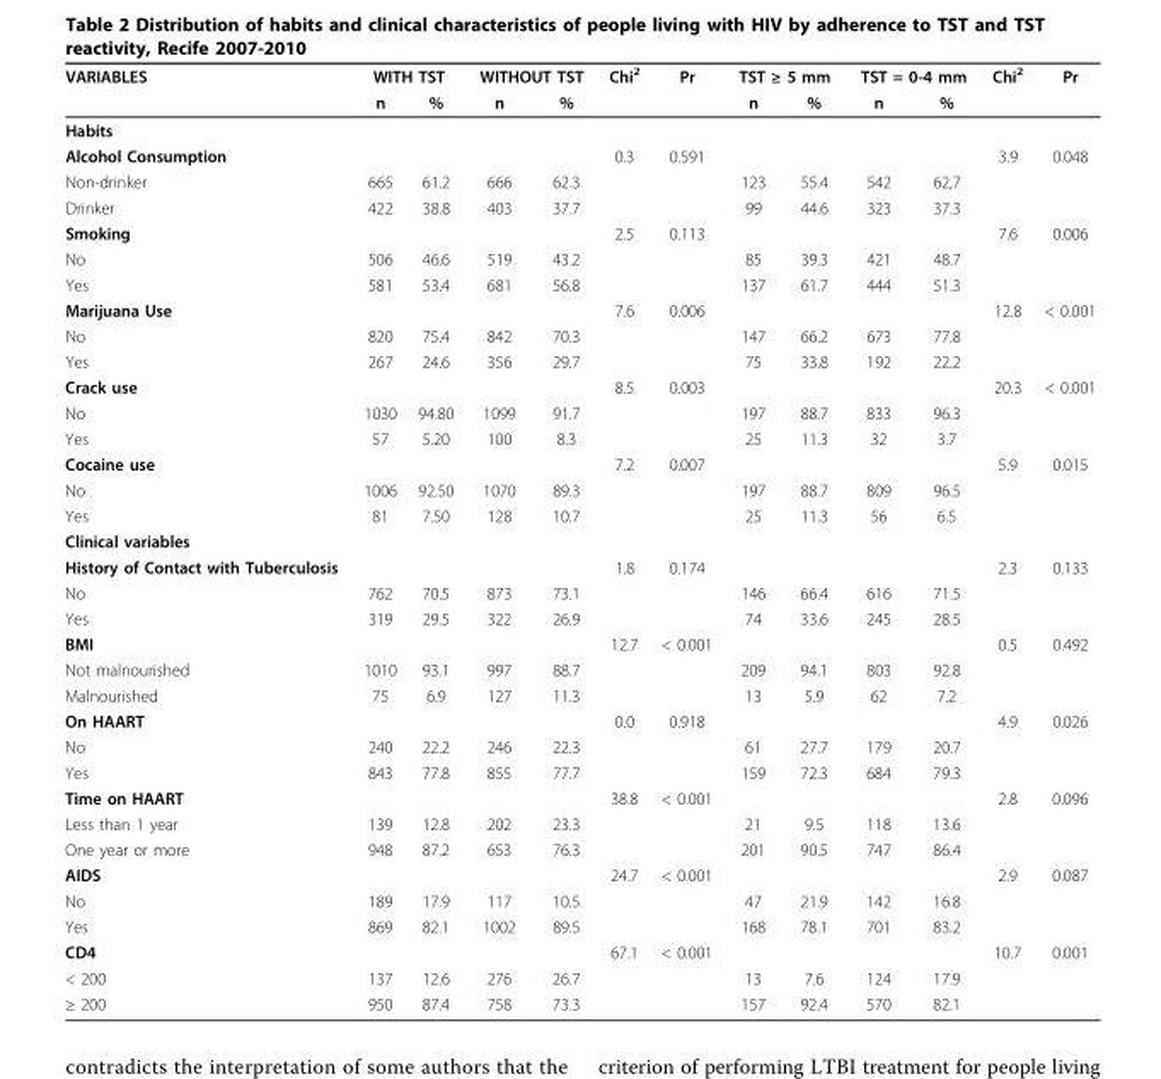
<table><thead><tr><td rowspan="2">VARIABLES</td><td colspan="2">WITH TST</td><td colspan="2">WITHOUT TST</td><td rowspan="2">Chi<sup>2</sup></td><td rowspan="2">Pr</td><td colspan="2">TST ≥ 5 mm</td><td colspan="2">TST = 0-4 mm</td><td rowspan="2">Chi<sup>2</sup></td><td rowspan="2">Pr</td></tr><tr><td>n</td><td>%</td><td>n</td><td>%</td><td>n</td><td>%</td><td>n</td><td>%</td></tr></thead><tbody><tr><td colspan="13">Habits</td></tr><tr><td>Alcohol Consumption</td><td></td><td></td><td></td><td></td><td>0.3</td><td>0.591</td><td></td><td></td><td></td><td></td><td>3.9</td><td>0.048</td></tr><tr><td>Non-drinker</td><td>665</td><td>61.2</td><td>666</td><td>62.3</td><td></td><td></td><td>123</td><td>55.4</td><td>542</td><td>62,7</td><td></td><td></td></tr><tr><td>Drinker</td><td>422</td><td>38.8</td><td>403</td><td>37.7</td><td></td><td></td><td>99</td><td>44.6</td><td>323</td><td>37.3</td><td></td><td></td></tr><tr><td>Smoking</td><td></td><td></td><td></td><td></td><td>2.5</td><td>0.113</td><td></td><td></td><td></td><td></td><td>7.6</td><td>0.006</td></tr><tr><td>No</td><td>506</td><td>46.6</td><td>519</td><td>43.2</td><td></td><td></td><td>85</td><td>39.3</td><td>421</td><td>48.7</td><td></td><td></td></tr><tr><td>Yes</td><td>581</td><td>53.4</td><td>681</td><td>56.8</td><td></td><td></td><td>137</td><td>61.7</td><td>444</td><td>51.3</td><td></td><td></td></tr><tr><td>Marijuana Use</td><td></td><td></td><td></td><td></td><td>7.6</td><td>0.006</td><td></td><td></td><td></td><td></td><td>12.8</td><td>&lt; 0.001</td></tr><tr><td>No</td><td>820</td><td>75.4</td><td>842</td><td>70.3</td><td></td><td></td><td>147</td><td>66.2</td><td>673</td><td>77.8</td><td></td><td></td></tr><tr><td>Yes</td><td>267</td><td>24.6</td><td>356</td><td>29.7</td><td></td><td></td><td>75</td><td>33.8</td><td>192</td><td>22.2</td><td></td><td></td></tr><tr><td>Crack use</td><td></td><td></td><td></td><td></td><td>8.5</td><td>0.003</td><td></td><td></td><td></td><td></td><td>20.3</td><td>&lt; 0.001</td></tr><tr><td>No</td><td>1030</td><td>94.80</td><td>1099</td><td>91.7</td><td></td><td></td><td>197</td><td>88.7</td><td>833</td><td>96.3</td><td></td><td></td></tr><tr><td>Yes</td><td>57</td><td>5.20</td><td>100</td><td>8.3</td><td></td><td></td><td>25</td><td>11.3</td><td>32</td><td>3.7</td><td></td><td></td></tr><tr><td>Cocaine use</td><td></td><td></td><td></td><td></td><td>7.2</td><td>0.007</td><td></td><td></td><td></td><td></td><td>5.9</td><td>0.015</td></tr><tr><td>No</td><td>1006</td><td>92.50</td><td>1070</td><td>89.3</td><td></td><td></td><td>197</td><td>88.7</td><td>809</td><td>96.5</td><td></td><td></td></tr><tr><td>Yes</td><td>81</td><td>7.50</td><td>128</td><td>10.7</td><td></td><td></td><td>25</td><td>11.3</td><td>56</td><td>6.5</td><td></td><td></td></tr><tr><td colspan="13">Clinical variables</td></tr><tr><td>History of Contact with Tuberculosis</td><td></td><td></td><td></td><td></td><td>1.8</td><td>0.174</td><td></td><td></td><td></td><td></td><td>2.3</td><td>0.133</td></tr><tr><td>No</td><td>762</td><td>70.5</td><td>873</td><td>73.1</td><td></td><td></td><td>146</td><td>66.4</td><td>616</td><td>71.5</td><td></td><td></td></tr><tr><td>Yes</td><td>319</td><td>29.5</td><td>322</td><td>26.9</td><td></td><td></td><td>74</td><td>33.6</td><td>245</td><td>28.5</td><td></td><td></td></tr><tr><td>BMI</td><td></td><td></td><td></td><td></td><td>12.7</td><td>&lt; 0.001</td><td></td><td></td><td></td><td></td><td>0.5</td><td>0.492</td></tr><tr><td>Not malnourished</td><td>1010</td><td>93.1</td><td>997</td><td>88.7</td><td></td><td></td><td>209</td><td>94.1</td><td>803</td><td>92.8</td><td></td><td></td></tr><tr><td>Malnourished</td><td>75</td><td>6.9</td><td>127</td><td>11.3</td><td></td><td></td><td>13</td><td>5.9</td><td>62</td><td>7.2</td><td></td><td></td></tr><tr><td>On HAART</td><td></td><td></td><td></td><td></td><td>0.0</td><td>0.918</td><td></td><td></td><td></td><td></td><td>4.9</td><td>0.026</td></tr><tr><td>No</td><td>240</td><td>22.2</td><td>246</td><td>22.3</td><td></td><td></td><td>61</td><td>27.7</td><td>179</td><td>20.7</td><td></td><td></td></tr><tr><td>Yes</td><td>843</td><td>77.8</td><td>855</td><td>77.7</td><td></td><td></td><td>159</td><td>72.3</td><td>684</td><td>79.3</td><td></td><td></td></tr><tr><td>Time on HAART</td><td></td><td></td><td></td><td></td><td>38.8</td><td>&lt; 0.001</td><td></td><td></td><td></td><td></td><td>2.8</td><td>0.096</td></tr><tr><td>Less than 1 year</td><td>139</td><td>12.8</td><td>202</td><td>23.3</td><td></td><td></td><td>21</td><td>9.5</td><td>118</td><td>13.6</td><td></td><td></td></tr><tr><td>One year or more</td><td>948</td><td>87.2</td><td>653</td><td>76.3</td><td></td><td></td><td>201</td><td>90.5</td><td>747</td><td>86.4</td><td></td><td></td></tr><tr><td>AIDS</td><td></td><td></td><td></td><td></td><td>24.7</td><td>&lt; 0.001</td><td></td><td></td><td></td><td></td><td>2.9</td><td>0.087</td></tr><tr><td>No</td><td>189</td><td>17.9</td><td>117</td><td>10.5</td><td></td><td></td><td>47</td><td>21.9</td><td>142</td><td>16.8</td><td></td><td></td></tr><tr><td>Yes</td><td>869</td><td>82.1</td><td>1002</td><td>89.5</td><td></td><td></td><td>168</td><td>78.1</td><td>701</td><td>83.2</td><td></td><td></td></tr><tr><td>CD4</td><td></td><td></td><td></td><td></td><td>67.1</td><td>&lt; 0.001</td><td></td><td></td><td></td><td></td><td>10.7</td><td>0.001</td></tr><tr><td>&lt; 200</td><td>137</td><td>12.6</td><td>276</td><td>26.7</td><td></td><td></td><td>13</td><td>7.6</td><td>124</td><td>17.9</td><td></td><td></td></tr><tr><td>≥ 200</td><td>950</td><td>87.4</td><td>758</td><td>73.3</td><td></td><td></td><td>157</td><td>92.4</td><td>570</td><td>82.1</td><td></td><td></td></tr></tbody></table>